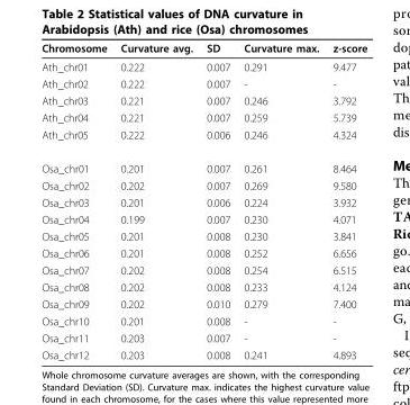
<table><thead><tr><td>Chromosome</td><td>Curvature avg.</td><td>SD</td><td>Curvature max.</td><td>z-score</td></tr></thead><tbody><tr><td>Ath_chr01</td><td>0.222</td><td>0.007</td><td>0.291</td><td>9.477</td></tr><tr><td>Ath_chr02</td><td>0.222</td><td>0.007</td><td>-</td><td>-</td></tr><tr><td>Ath_chr03</td><td>0.221</td><td>0.007</td><td>0.246</td><td>3.792</td></tr><tr><td>Ath_chr04</td><td>0.221</td><td>0.007</td><td>0.259</td><td>5.739</td></tr><tr><td>Ath_chr05</td><td>0.222</td><td>0.006</td><td>0.246</td><td>4.324</td></tr><tr><td>Osa_chr01</td><td>0.201</td><td>0.007</td><td>0.261</td><td>8.464</td></tr><tr><td>Osa_chr02</td><td>0.202</td><td>0.007</td><td>0.269</td><td>9.580</td></tr><tr><td>Osa_chr03</td><td>0.201</td><td>0.006</td><td>0.224</td><td>3.932</td></tr><tr><td>Osa_chr04</td><td>0.199</td><td>0.007</td><td>0.230</td><td>4.071</td></tr><tr><td>Osa_chr05</td><td>0.201</td><td>0.008</td><td>0.230</td><td>3.841</td></tr><tr><td>Osa_chr06</td><td>0.201</td><td>0.008</td><td>0.252</td><td>6.656</td></tr><tr><td>Osa_chr07</td><td>0.202</td><td>0.008</td><td>0.254</td><td>6.515</td></tr><tr><td>Osa_chr08</td><td>0.202</td><td>0.008</td><td>0.233</td><td>4.124</td></tr><tr><td>Osa_chr09</td><td>0.202</td><td>0.010</td><td>0.279</td><td>7.400</td></tr><tr><td>Osa_chr10</td><td>0.201</td><td>0.008</td><td>-</td><td>-</td></tr><tr><td>Osa_chr11</td><td>0.203</td><td>0.007</td><td>-</td><td>-</td></tr><tr><td>Osa_chr12</td><td>0.203</td><td>0.008</td><td>0.241</td><td>4.893</td></tr></tbody></table>